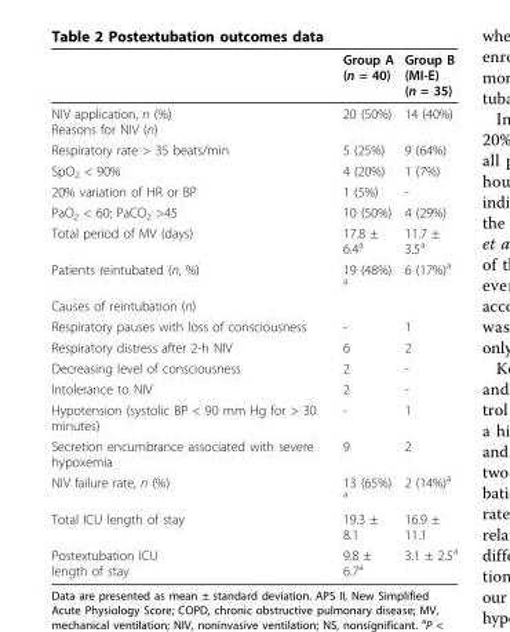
<table><thead><tr><td></td><td>Group A (n = 40)</td><td>Group B (MI-E) (n = 35)</td></tr></thead><tbody><tr><td>NIV application, n (%) Reasons for NIV (n)</td><td>20 (50%)</td><td>14 (40%)</td></tr><tr><td>Respiratory rate &gt; 35 beats/min</td><td>5 (25%)</td><td>9 (64%)</td></tr><tr><td>SpO<sub>2</sub> &lt; 90%</td><td>4 (20%)</td><td>1 (7%)</td></tr><tr><td>20% variation of HR or BP</td><td>1 (5%)</td><td>-</td></tr><tr><td>PaO<sub>2</sub> &lt; 60; PaCO<sub>2</sub> &gt;45</td><td>10 (50%)</td><td>4 (29%)</td></tr><tr><td>Total period of MV (days)</td><td>17.8 ± 6.4<sup>a</sup></td><td>11.7 ± 3.5<sup>a</sup></td></tr><tr><td>Patients reintubated (n, %)</td><td>19 (48%) <sup>a</sup></td><td>6 (17%)<sup>a</sup></td></tr><tr><td colspan="3">Causes of reintubation (n)</td></tr><tr><td>Respiratory pauses with loss of consciousness</td><td>-</td><td>1</td></tr><tr><td>Respiratory distress after 2-h NIV</td><td>6</td><td>2</td></tr><tr><td>Decreasing level of consciousness</td><td>2</td><td>-</td></tr><tr><td>Intolerance to NIV</td><td>2</td><td>-</td></tr><tr><td>Hypotension (systolic BP &lt; 90 mm Hg for &gt; 30 minutes)</td><td>-</td><td>1</td></tr><tr><td>Secretion encumbrance associated with severe hypoxemia</td><td>9</td><td>2</td></tr><tr><td>NIV failure rate, n (%)</td><td>13 (65%) <sup>a</sup></td><td>2 (14%)<sup>a</sup></td></tr><tr><td>Total ICU length of stay</td><td>19.3 ± 8.1</td><td>16.9 ± 11.1</td></tr><tr><td>Postextubation ICU length of stay</td><td>9.8 ± 6.7<sup>a</sup></td><td>3.1 ± 2.5<sup>a</sup></td></tr></tbody></table>